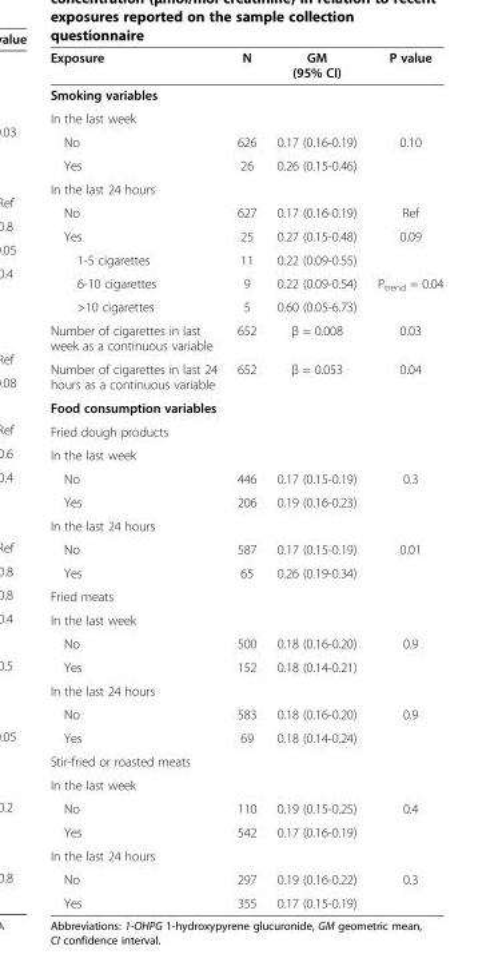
<table><thead><tr><td>Exposure</td><td>N</td><td>GM (95% CI)</td><td>P value</td></tr></thead><tbody><tr><td colspan="4">Smoking variables</td></tr><tr><td colspan="4">In the last week</td></tr><tr><td>No</td><td>626</td><td>0.17 (0.16-0.19)</td><td>0.10</td></tr><tr><td>Yes</td><td>26</td><td>0.26 (0.15-0.46)</td><td></td></tr><tr><td colspan="4">In the last 24 hours</td></tr><tr><td>No</td><td>627</td><td>0.17 (0.16-0.19)</td><td>Ref</td></tr><tr><td>Yes</td><td>25</td><td>0.27 (0.15-0.48)</td><td>0.09</td></tr><tr><td>1-5 cigarettes</td><td>11</td><td>0.22 (0.09-0.55)</td><td></td></tr><tr><td>6-10 cigarettes</td><td>9</td><td>0.22 (0.09-0.54)</td><td>P<sub>trend</sub> = 0.04</td></tr><tr><td>&gt;10 cigarettes</td><td>5</td><td>0.60 (0.05-6.73)</td><td></td></tr><tr><td>Number of cigarettes in last week as a continuous variable</td><td>652</td><td>β = 0.008</td><td>0.03</td></tr><tr><td>Number of cigarettes in last 24 hours as a continuous variable</td><td>652</td><td>β = 0.053</td><td>0.04</td></tr><tr><td colspan="4">Food consumption variables</td></tr><tr><td colspan="4">Fried dough products</td></tr><tr><td colspan="4">In the last week</td></tr><tr><td>No</td><td>446</td><td>0.17 (0.15-0.19)</td><td>0.3</td></tr><tr><td>Yes</td><td>206</td><td>0.19 (0.16-0.23)</td><td></td></tr><tr><td colspan="4">In the last 24 hours</td></tr><tr><td>No</td><td>587</td><td>0.17 (0.15-0.19)</td><td>0.01</td></tr><tr><td>Yes</td><td>65</td><td>0.26 (0.19-0.34)</td><td></td></tr><tr><td colspan="4">Fried meats</td></tr><tr><td colspan="4">In the last week</td></tr><tr><td>No</td><td>500</td><td>0.18 (0.16-0.20)</td><td>0.9</td></tr><tr><td>Yes</td><td>152</td><td>0.18 (0.14-0.21)</td><td></td></tr><tr><td colspan="4">In the last 24 hours</td></tr><tr><td>No</td><td>583</td><td>0.18 (0.16-0.20)</td><td>0.9</td></tr><tr><td>Yes</td><td>69</td><td>0.18 (0.14-0.24)</td><td></td></tr><tr><td colspan="4">Stir-fried or roasted meats</td></tr><tr><td colspan="4">In the last week</td></tr><tr><td>No</td><td>110</td><td>0.19 (0.15-0.25)</td><td>0.4</td></tr><tr><td>Yes</td><td>542</td><td>0.17 (0.16-0.19)</td><td></td></tr><tr><td colspan="4">In the last 24 hours</td></tr><tr><td>No</td><td>297</td><td>0.19 (0.16-0.22)</td><td>0.3</td></tr><tr><td>Yes</td><td>355</td><td>0.17 (0.15-0.19)</td><td></td></tr></tbody></table>